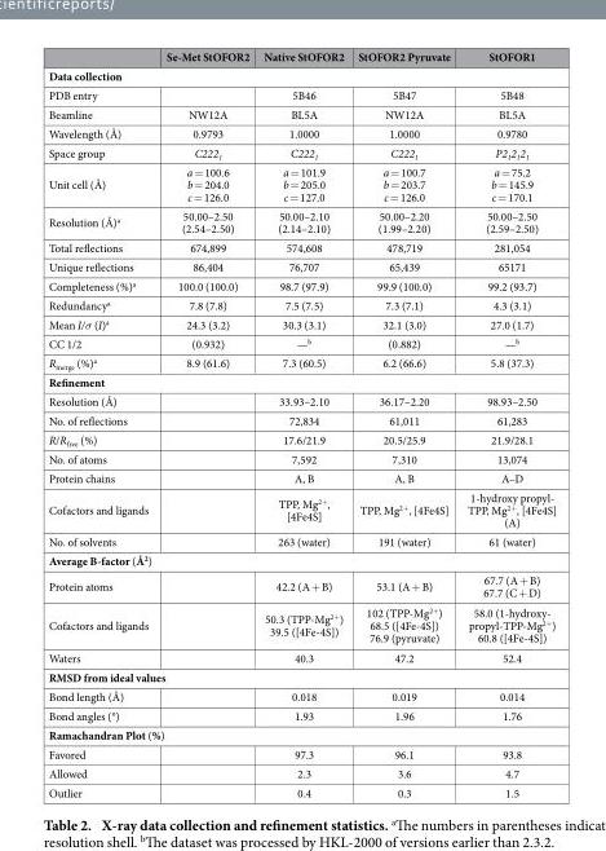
<table><thead><tr><td></td><td>Se-Met StOFOR2</td><td>Native StOFOR2</td><td>StOFOR2 Pyruvate</td><td>StOFOR1</td></tr></thead><tbody><tr><td colspan="5">Data collection</td></tr><tr><td>PDB entry</td><td></td><td>5B46</td><td>5B47</td><td>5B48</td></tr><tr><td>Beamline</td><td>NW12A</td><td>BL5A</td><td>NW12A</td><td>BL5A</td></tr><tr><td>Wavelength (Å)</td><td>0.9793</td><td>1.0000</td><td>1.0000</td><td>0.9780</td></tr><tr><td>Space group</td><td>C222<sub>1</sub></td><td>C222<sub>1</sub></td><td>C222<sub>1</sub></td><td>P2<sub>1</sub>2<sub>1</sub>2<sub>1</sub></td></tr><tr><td>Unit cell (Å)</td><td>a = 100.6 b = 204.0 c = 126.0</td><td>a = 101.9 b = 205.0 c = 127.0</td><td>a = 100.7 b = 203.7 c = 126.0</td><td>a = 75.2 b = 145.9 c = 170.1</td></tr><tr><td>Resolution (Å)<sup>a</sup></td><td>50.00–2.50 (2.54–2.50)</td><td>50.00–2.10 (2.14–2.10)</td><td>50.00–2.20 (1.99–2.20)</td><td>50.00–2.50 (2.59–2.50)</td></tr><tr><td>Total reflections</td><td>674,899</td><td>574,608</td><td>478,719</td><td>281,054</td></tr><tr><td>Unique reflections</td><td>86,404</td><td>76,707</td><td>65,439</td><td>65171</td></tr><tr><td>Completeness (%)<sup>a</sup></td><td>100.0 (100.0)</td><td>98.7 (97.9)</td><td>99.9 (100.0)</td><td>99.2 (93.7)</td></tr><tr><td>Redundancy<sup>a</sup></td><td>7.8 (7.8)</td><td>7.5 (7.5)</td><td>7.3 (7.1)</td><td>4.3 (3.1)</td></tr><tr><td>Mean I/σ (I)<sup>a</sup></td><td>24.3 (3.2)</td><td>30.3 (3.1)</td><td>32.1 (3.0)</td><td>27.0 (1.7)</td></tr><tr><td>CC 1/2</td><td>(0.932)</td><td>—b</td><td>(0.882)</td><td>—b</td></tr><tr><td>R<sub>merge</sub> (%)<sup>a</sup></td><td>8.9 (61.6)</td><td>7.3 (60.5)</td><td>6.2 (66.6)</td><td>5.8 (37.3)</td></tr><tr><td colspan="5">Refinement</td></tr><tr><td>Resolution (Å)</td><td></td><td>33.93–2.10</td><td>36.17–2.20</td><td>98.93–2.50</td></tr><tr><td>No. of reflections</td><td></td><td>72,834</td><td>61,011</td><td>61,283</td></tr><tr><td>R/R<sub>free</sub> (%)</td><td></td><td>17.6/21.9</td><td>20.5/25.9</td><td>21.9/28.1</td></tr><tr><td>No. of atoms</td><td></td><td>7,592</td><td>7,310</td><td>13,074</td></tr><tr><td>Protein chains</td><td></td><td>A, B</td><td>A, B</td><td>A–D</td></tr><tr><td>Cofactors and ligands</td><td></td><td>TPP, Mg<sup>2+</sup>, [4Fe4S]</td><td>TPP, Mg<sup>2+</sup>, [4Fe4S]</td><td>1-hydroxy propyl- TPP, Mg<sup>2+</sup>, [4Fe4S] (A)</td></tr><tr><td>No. of solvents</td><td></td><td>263 (water)</td><td>191 (water)</td><td>61 (water)</td></tr><tr><td colspan="5">Average B-factor (Å<sup>2</sup>)</td></tr><tr><td>Protein atoms</td><td></td><td>42.2 (A + B)</td><td>53.1 (A + B)</td><td>67.7 (A + B) 67.7 (C + D)</td></tr><tr><td>Cofactors and ligands</td><td></td><td>50.3 (TPP-Mg<sup>2+</sup>) 39.5 ([4Fe-4S])</td><td>102 (TPP-Mg<sup>2+</sup>) 68.5 ([4Fe-4S]) 76.9 (pyruvate)</td><td>58.0 (1-hydroxy- propyl-TPP-Mg<sup>2+</sup>) 60.8 ([4Fe-4S])</td></tr><tr><td>Waters</td><td></td><td>40.3</td><td>47.2</td><td>52.4</td></tr><tr><td colspan="5">RMSD from ideal values</td></tr><tr><td>Bond length (Å)</td><td></td><td>0.018</td><td>0.019</td><td>0.014</td></tr><tr><td>Bond angles (°)</td><td></td><td>1.93</td><td>1.96</td><td>1.76</td></tr><tr><td colspan="5">Ramachandran Plot (%)</td></tr><tr><td>Favored</td><td></td><td>97.3</td><td>96.1</td><td>93.8</td></tr><tr><td>Allowed</td><td></td><td>2.3</td><td>3.6</td><td>4.7</td></tr><tr><td>Outlier</td><td></td><td>0.4</td><td>0.3</td><td>1.5</td></tr></tbody></table>